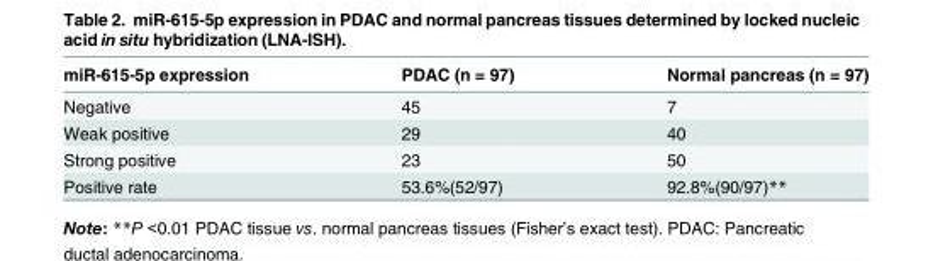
<table><thead><tr><td>miR-615-5p expression</td><td>PDAC (n = 97)</td><td>Normal pancreas (n = 97)</td></tr></thead><tbody><tr><td>Negative</td><td>45</td><td>7</td></tr><tr><td>Weak positive</td><td>29</td><td>40</td></tr><tr><td>Strong positive</td><td>23</td><td>50</td></tr><tr><td>Positive rate</td><td>53.6%(52/97)</td><td>92.8%(90/97)**</td></tr></tbody></table>